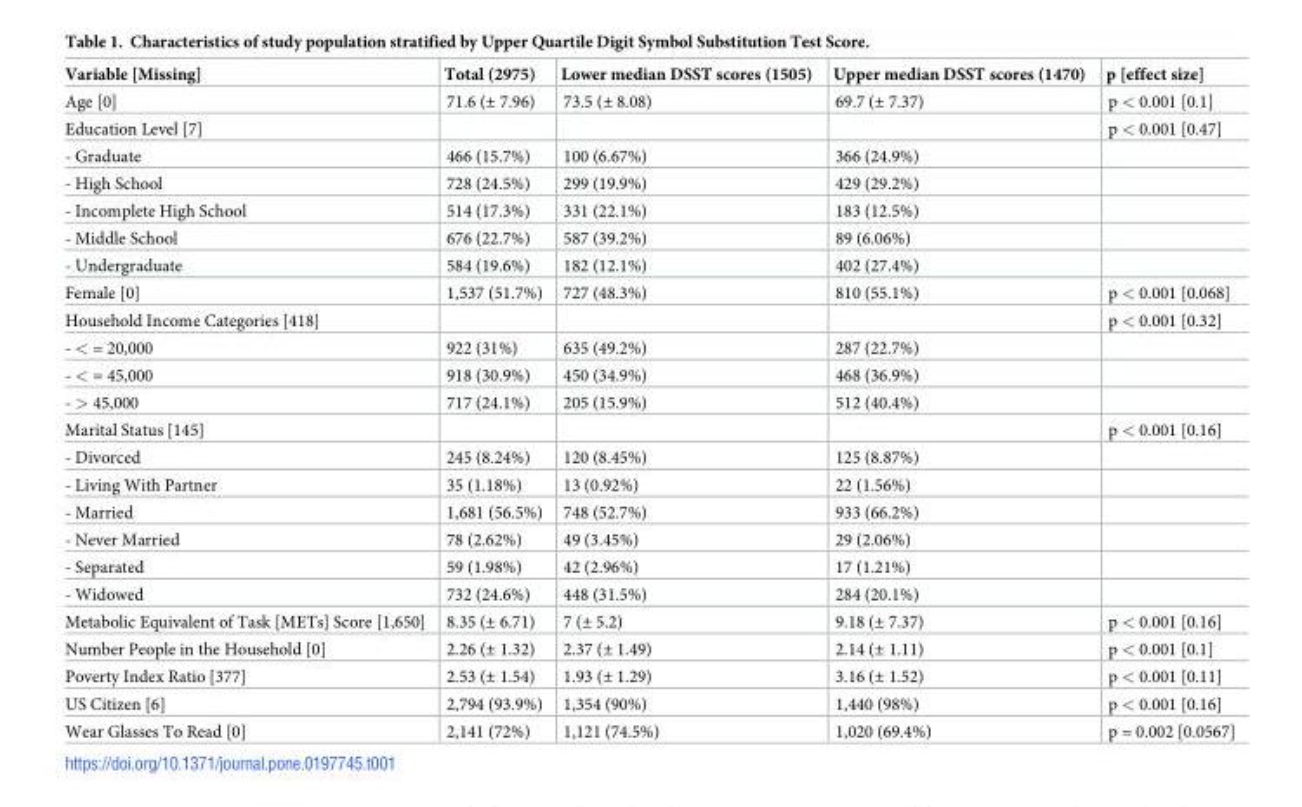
<table><thead><tr><td>Variable [Missing]</td><td>Total (2975)</td><td>Lower median DSST scores (1505)</td><td>Upper median DSST scores (1470)</td><td>p [effect size]</td></tr></thead><tbody><tr><td>Age [0]</td><td>71.6 (± 7.96)</td><td>73.5 (± 8.08)</td><td>69.7 (± 7.37)</td><td>p &lt; 0.001 [0.1]</td></tr><tr><td>Education Level [7]</td><td></td><td></td><td></td><td>p &lt; 0.001 [0.47]</td></tr><tr><td>- Graduate</td><td>466 (15.7%)</td><td>100 (6.67%)</td><td>366 (24.9%)</td><td></td></tr><tr><td>- High School</td><td>728 (24.5%)</td><td>299 (19.9%)</td><td>429 (29.2%)</td><td></td></tr><tr><td>- Incomplete High School</td><td>514 (17.3%)</td><td>331 (22.1%)</td><td>183 (12.5%)</td><td></td></tr><tr><td>- Middle School</td><td>676 (22.7%)</td><td>587 (39.2%)</td><td>89 (6.06%)</td><td></td></tr><tr><td>- Undergraduate</td><td>584 (19.6%)</td><td>182 (12.1%)</td><td>402 (27.4%)</td><td></td></tr><tr><td>Female [0]</td><td>1,537 (51.7%)</td><td>727 (48.3%)</td><td>810 (55.1%)</td><td>p &lt; 0.001 [0.068]</td></tr><tr><td>Household Income Categories [418]</td><td></td><td></td><td></td><td>p &lt; 0.001 [0.32]</td></tr><tr><td>- &lt; = 20,000</td><td>922 (31%)</td><td>635 (49.2%)</td><td>287 (22.7%)</td><td></td></tr><tr><td>- &lt; = 45,000</td><td>918 (30.9%)</td><td>450 (34.9%)</td><td>468 (36.9%)</td><td></td></tr><tr><td>- &gt; 45,000</td><td>717 (24.1%)</td><td>205 (15.9%)</td><td>512 (40.4%)</td><td></td></tr><tr><td>Marital Status [145]</td><td></td><td></td><td></td><td>p &lt; 0.001 [0.16]</td></tr><tr><td>- Divorced</td><td>245 (8.24%)</td><td>120 (8.45%)</td><td>125 (8.87%)</td><td></td></tr><tr><td>- Living With Partner</td><td>35 (1.18%)</td><td>13 (0.92%)</td><td>22 (1.56%)</td><td></td></tr><tr><td>- Married</td><td>1,681 (56.5%)</td><td>748 (52.7%)</td><td>933 (66.2%)</td><td></td></tr><tr><td>- Never Married</td><td>78 (2.62%)</td><td>49 (3.45%)</td><td>29 (2.06%)</td><td></td></tr><tr><td>- Separated</td><td>59 (1.98%)</td><td>42 (2.96%)</td><td>17 (1.21%)</td><td></td></tr><tr><td>- Widowed</td><td>732 (24.6%)</td><td>448 (31.5%)</td><td>284 (20.1%)</td><td></td></tr><tr><td>Metabolic Equivalent of Task [METs] Score [1,650]</td><td>8.35 (± 6.71)</td><td>7 (± 5.2)</td><td>9.18 (± 7.37)</td><td>p &lt; 0.001 [0.16]</td></tr><tr><td>Number People in the Household [0]</td><td>2.26 (± 1.32)</td><td>2.37 (± 1.49)</td><td>2.14 (± 1.11)</td><td>p &lt; 0.001 [0.1]</td></tr><tr><td>Poverty Index Ratio [377]</td><td>2.53 (± 1.54)</td><td>1.93 (± 1.29)</td><td>3.16 (± 1.52)</td><td>p &lt; 0.001 [0.11]</td></tr><tr><td>US Citizen [6]</td><td>2,794 (93.9%)</td><td>1,354 (90%)</td><td>1,440 (98%)</td><td>p &lt; 0.001 [0.16]</td></tr><tr><td>Wear Glasses To Read [0]</td><td>2,141 (72%)</td><td>1,121 (74.5%)</td><td>1,020 (69.4%)</td><td>p = 0.002 [0.0567]</td></tr></tbody></table>